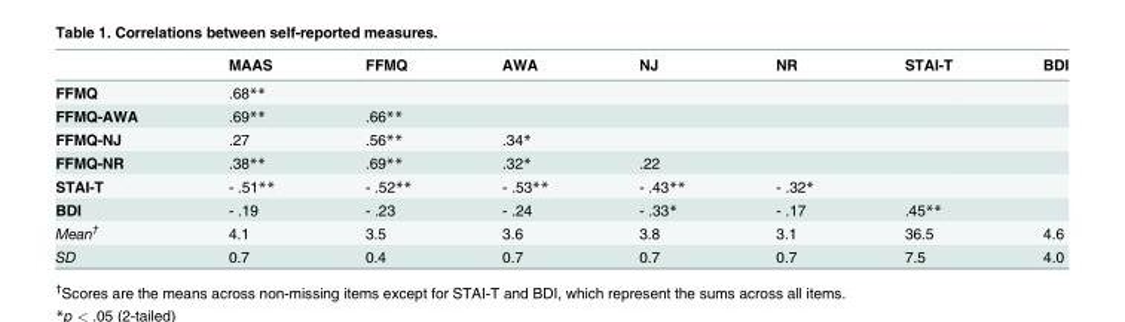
<table><thead><tr><td></td><td>MAAS</td><td>FFMQ</td><td>AWA</td><td>NJ</td><td>NR</td><td>STAI-T</td><td>BDI</td></tr></thead><tbody><tr><td>FFMQ</td><td>.68**</td><td></td><td></td><td></td><td></td><td></td><td></td></tr><tr><td>FFMQ-AWA</td><td>.69**</td><td>.66**</td><td></td><td></td><td></td><td></td><td></td></tr><tr><td>FFMQ-NJ</td><td>.27</td><td>.56**</td><td>.34*</td><td></td><td></td><td></td><td></td></tr><tr><td>FFMQ-NR</td><td>.38**</td><td>.69**</td><td>.32*</td><td>.22</td><td></td><td></td><td></td></tr><tr><td>STAI-T</td><td>- .51**</td><td>- .52**</td><td>- .53**</td><td>- .43**</td><td>- .32*</td><td></td><td></td></tr><tr><td>BDI</td><td>- .19</td><td>- .23</td><td>- .24</td><td>- .33*</td><td>- .17</td><td>.45**</td><td></td></tr><tr><td>Mean<sup>†</sup></td><td>4.1</td><td>3.5</td><td>3.6</td><td>3.8</td><td>3.1</td><td>36.5</td><td>4.6</td></tr><tr><td>SD</td><td>0.7</td><td>0.4</td><td>0.7</td><td>0.7</td><td>0.7</td><td>7.5</td><td>4.0</td></tr></tbody></table>